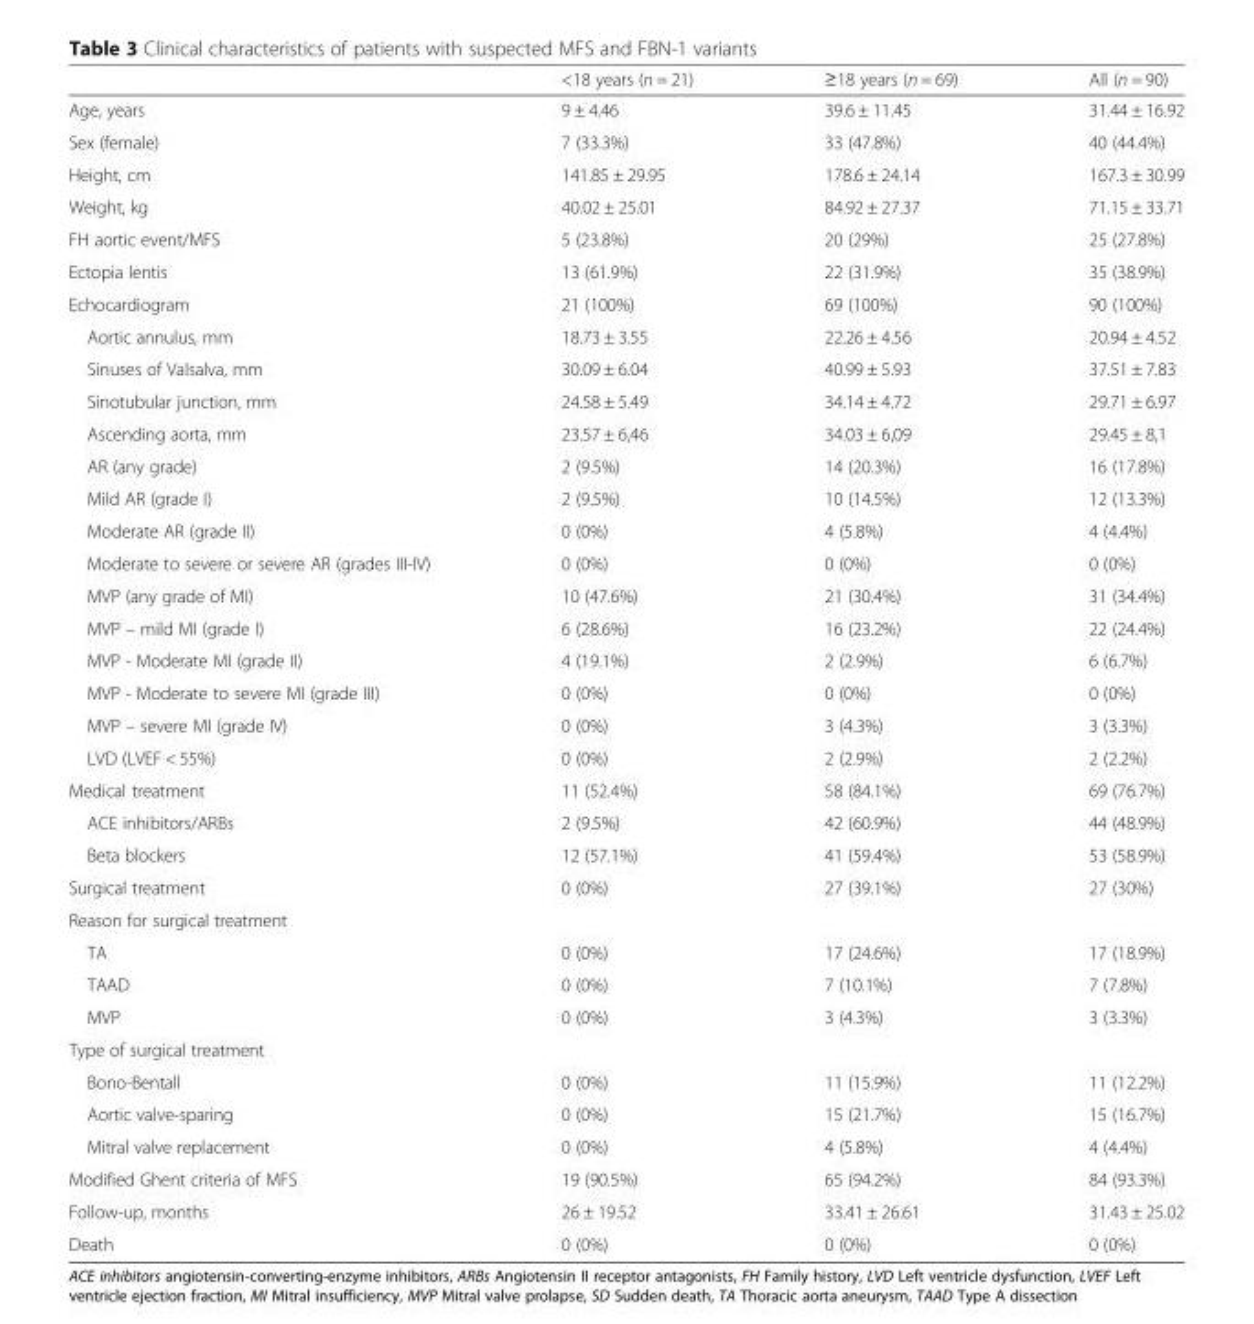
<table><thead><tr><td></td><td>&lt;18 years (n = 21)</td><td>≥18 years (n = 69)</td><td>All (n = 90)</td></tr></thead><tbody><tr><td>Age, years</td><td>9 ± 4.46</td><td>39.6 ± 11.45</td><td>31.44 ± 16.92</td></tr><tr><td>Sex (female)</td><td>7 (33.3%)</td><td>33 (47.8%)</td><td>40 (44.4%)</td></tr><tr><td>Height, cm</td><td>141.85 ± 29.95</td><td>178.6 ± 24.14</td><td>167.3 ± 30.99</td></tr><tr><td>Weight, kg</td><td>40.02 ± 25.01</td><td>84.92 ± 27.37</td><td>71.15 ± 33.71</td></tr><tr><td>FH aortic event/MFS</td><td>5 (23.8%)</td><td>20 (29%)</td><td>25 (27.8%)</td></tr><tr><td>Ectopia lentis</td><td>13 (61.9%)</td><td>22 (31.9%)</td><td>35 (38.9%)</td></tr><tr><td>Echocardiogram</td><td>21 (100%)</td><td>69 (100%)</td><td>90 (100%)</td></tr><tr><td>Aortic annulus, mm</td><td>18.73 ± 3.55</td><td>22.26 ± 4.56</td><td>20.94 ± 4.52</td></tr><tr><td>Sinuses of Valsalva, mm</td><td>30.09 ± 6.04</td><td>40.99 ± 5.93</td><td>37.51 ± 7.83</td></tr><tr><td>Sinotubular junction, mm</td><td>24.58 ± 5.49</td><td>34.14 ± 4.72</td><td>29.71 ± 6.97</td></tr><tr><td>Ascending aorta, mm</td><td>23.57 ± 6,46</td><td>34.03 ± 6,09</td><td>29.45 ± 8,1</td></tr><tr><td>AR (any grade)</td><td>2 (9.5%)</td><td>14 (20.3%)</td><td>16 (17.8%)</td></tr><tr><td>Mild AR (grade I)</td><td>2 (9.5%)</td><td>10 (14.5%)</td><td>12 (13.3%)</td></tr><tr><td>Moderate AR (grade II)</td><td>0 (0%)</td><td>4 (5.8%)</td><td>4 (4.4%)</td></tr><tr><td>Moderate to severe or severe AR (grades III-IV)</td><td>0 (0%)</td><td>0 (0%)</td><td>0 (0%)</td></tr><tr><td>MVP (any grade of MI)</td><td>10 (47.6%)</td><td>21 (30.4%)</td><td>31 (34.4%)</td></tr><tr><td>MVP – mild MI (grade I)</td><td>6 (28.6%)</td><td>16 (23.2%)</td><td>22 (24.4%)</td></tr><tr><td>MVP - Moderate MI (grade II)</td><td>4 (19.1%)</td><td>2 (2.9%)</td><td>6 (6.7%)</td></tr><tr><td>MVP - Moderate to severe MI (grade III)</td><td>0 (0%)</td><td>0 (0%)</td><td>0 (0%)</td></tr><tr><td>MVP – severe MI (grade IV)</td><td>0 (0%)</td><td>3 (4.3%)</td><td>3 (3.3%)</td></tr><tr><td>LVD (LVEF &lt; 55%)</td><td>0 (0%)</td><td>2 (2.9%)</td><td>2 (2.2%)</td></tr><tr><td>Medical treatment</td><td>11 (52.4%)</td><td>58 (84.1%)</td><td>69 (76.7%)</td></tr><tr><td>ACE inhibitors/ARBs</td><td>2 (9.5%)</td><td>42 (60.9%)</td><td>44 (48.9%)</td></tr><tr><td>Beta blockers</td><td>12 (57.1%)</td><td>41 (59.4%)</td><td>53 (58.9%)</td></tr><tr><td>Surgical treatment</td><td>0 (0%)</td><td>27 (39.1%)</td><td>27 (30%)</td></tr><tr><td colspan="4">Reason for surgical treatment</td></tr><tr><td>TA</td><td>0 (0%)</td><td>17 (24.6%)</td><td>17 (18.9%)</td></tr><tr><td>TAAD</td><td>0 (0%)</td><td>7 (10.1%)</td><td>7 (7.8%)</td></tr><tr><td>MVP</td><td>0 (0%)</td><td>3 (4.3%)</td><td>3 (3.3%)</td></tr><tr><td colspan="4">Type of surgical treatment</td></tr><tr><td>Bono-Bentall</td><td>0 (0%)</td><td>11 (15.9%)</td><td>11 (12.2%)</td></tr><tr><td>Aortic valve-sparing</td><td>0 (0%)</td><td>15 (21.7%)</td><td>15 (16.7%)</td></tr><tr><td>Mitral valve replacement</td><td>0 (0%)</td><td>4 (5.8%)</td><td>4 (4.4%)</td></tr><tr><td>Modified Ghent criteria of MFS</td><td>19 (90.5%)</td><td>65 (94.2%)</td><td>84 (93.3%)</td></tr><tr><td>Follow-up, months</td><td>26 ± 19.52</td><td>33.41 ± 26.61</td><td>31.43 ± 25.02</td></tr><tr><td>Death</td><td>0 (0%)</td><td>0 (0%)</td><td>0 (0%)</td></tr></tbody></table>